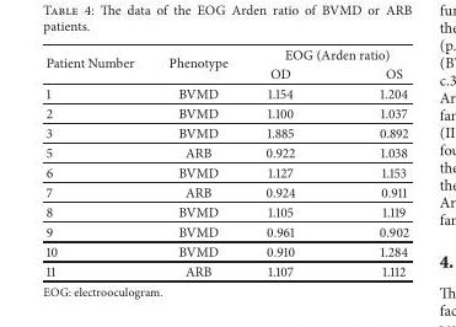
<table><thead><tr><td rowspan="2">Patient Number</td><td rowspan="2">Phenotype</td><td colspan="2">EOG (Arden ratio)</td></tr><tr><td>OD</td><td>OS</td></tr></thead><tbody><tr><td>1</td><td>BVMD</td><td>1.154</td><td>1.204</td></tr><tr><td>2</td><td>BVMD</td><td>1.100</td><td>1.037</td></tr><tr><td>3</td><td>BVMD</td><td>1.885</td><td>0.892</td></tr><tr><td>5</td><td>ARB</td><td>0.922</td><td>1.038</td></tr><tr><td>6</td><td>BVMD</td><td>1.127</td><td>1.153</td></tr><tr><td>7</td><td>ARB</td><td>0.924</td><td>0.911</td></tr><tr><td>8</td><td>BVMD</td><td>1.105</td><td>1.119</td></tr><tr><td>9</td><td>BVMD</td><td>0.961</td><td>0.902</td></tr><tr><td>10</td><td>BVMD</td><td>0.910</td><td>1.284</td></tr><tr><td>11</td><td>ARB</td><td>1.107</td><td>1.112</td></tr></tbody></table>